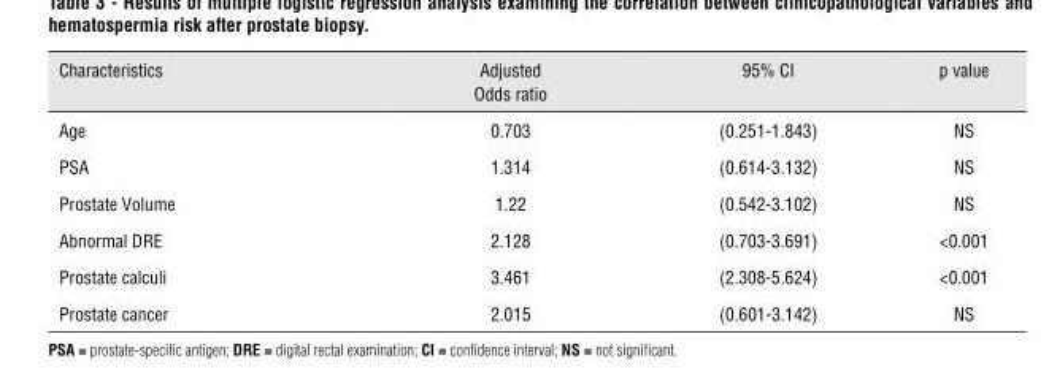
<table><thead><tr><td>Characteristics</td><td>Adjusted Odds ratio</td><td>95% CI</td><td>p value</td></tr></thead><tbody><tr><td>Age</td><td>0.703</td><td>(0.251-1.843)</td><td>NS</td></tr><tr><td>PSA</td><td>1.314</td><td>(0.614-3.132)</td><td>NS</td></tr><tr><td>Prostate Volume</td><td>1.22</td><td>(0.542-3.102)</td><td>NS</td></tr><tr><td>Abnormal DRE</td><td>2.128</td><td>(0.703-3.691)</td><td>&lt;0.001</td></tr><tr><td>Prostate calculi</td><td>3.461</td><td>(2.308-5.624)</td><td>&lt;0.001</td></tr><tr><td>Prostate cancer</td><td>2.015</td><td>(0.601-3.142)</td><td>NS</td></tr></tbody></table>